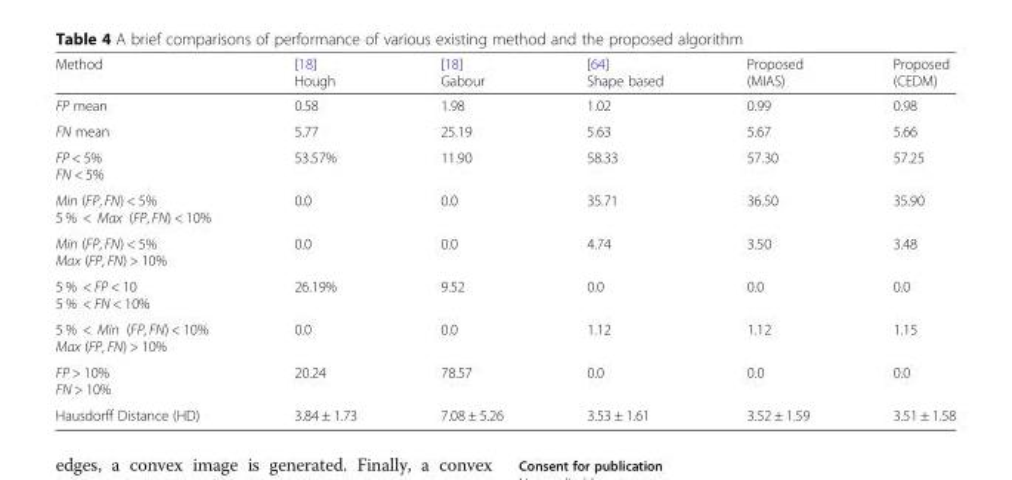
<table><thead><tr><td>Method</td><td>[18] Hough</td><td>[18] Gabour</td><td>[64] Shape based</td><td>Proposed (MIAS)</td><td>Proposed (CEDM)</td></tr></thead><tbody><tr><td>FP mean</td><td>0.58</td><td>1.98</td><td>1.02</td><td>0.99</td><td>0.98</td></tr><tr><td>FN mean</td><td>5.77</td><td>25.19</td><td>5.63</td><td>5.67</td><td>5.66</td></tr><tr><td>FP &lt; 5% FN &lt; 5%</td><td>53.57%</td><td>11.90</td><td>58.33</td><td>57.30</td><td>57.25</td></tr><tr><td>Min (FP, FN) &lt; 5% 5 % &lt; Max (FP, FN) &lt; 10%</td><td>0.0</td><td>0.0</td><td>35.71</td><td>36.50</td><td>35.90</td></tr><tr><td>Min (FP, FN) &lt; 5% Max (FP, FN) &gt; 10%</td><td>0.0</td><td>0.0</td><td>4.74</td><td>3.50</td><td>3.48</td></tr><tr><td>5 % &lt; FP &lt; 10 5 % &lt; FN &lt; 10%</td><td>26.19%</td><td>9.52</td><td>0.0</td><td>0.0</td><td>0.0</td></tr><tr><td>5 % &lt; Min (FP, FN) &lt; 10% Max (FP, FN) &gt; 10%</td><td>0.0</td><td>0.0</td><td>1.12</td><td>1.12</td><td>1.15</td></tr><tr><td>FP &gt; 10% FN &gt; 10%</td><td>20.24</td><td>78.57</td><td>0.0</td><td>0.0</td><td>0.0</td></tr><tr><td>Hausdorff Distance (HD)</td><td>3.84 ± 1.73</td><td>7.08 ± 5.26</td><td>3.53 ± 1.61</td><td>3.52 ± 1.59</td><td>3.51 ± 1.58</td></tr></tbody></table>